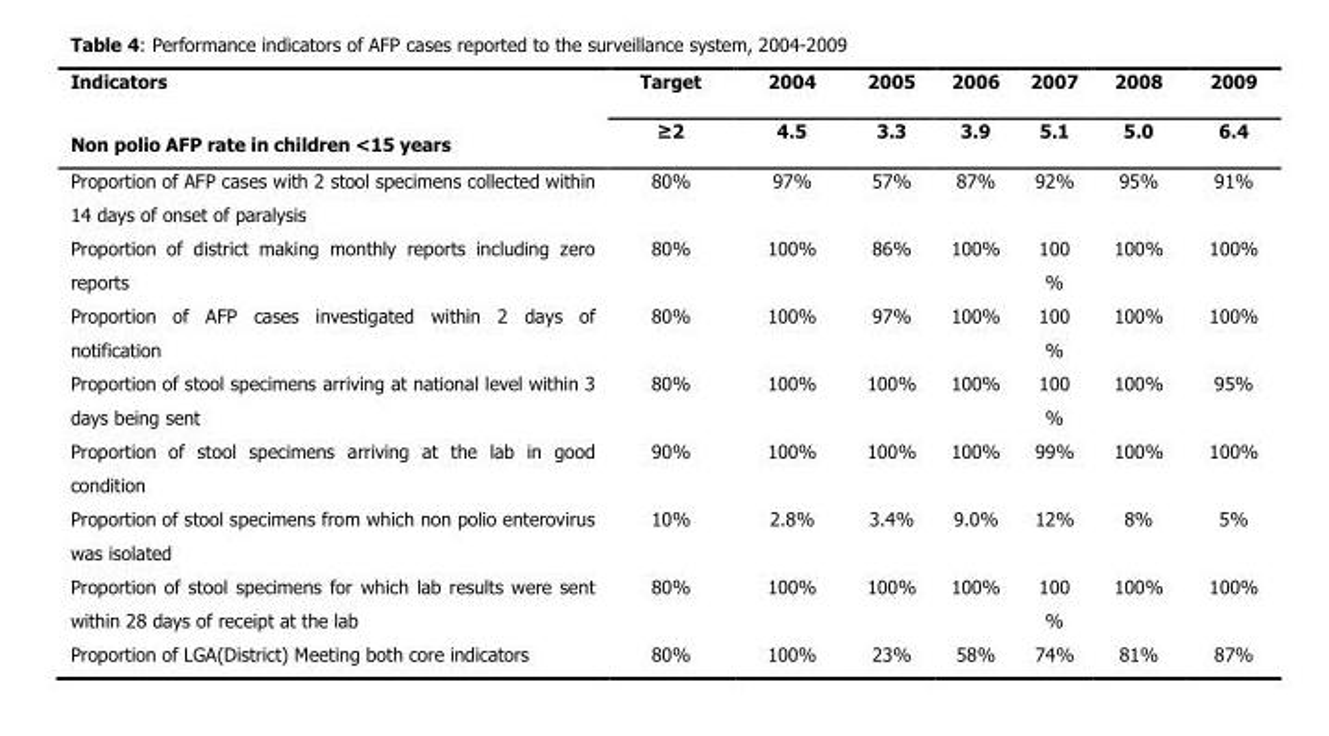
<table><thead><tr><td rowspan="2">Indicators Non polio AFP rate in children &lt;15 years</td><td rowspan="2">Target ≥2</td><td rowspan="2">2004 4.5</td><td rowspan="2">2005 3.3</td><td rowspan="2">2006 3.9</td><td rowspan="2">2007 5.1</td><td rowspan="2">2008 5.0</td><td rowspan="2">2009 6.4</td></tr><tr></tr></thead><tbody><tr><td>Proportion of AFP cases with 2 stool specimens collected within 14 days of onset of paralysis</td><td>80%</td><td>97%</td><td>57%</td><td>87%</td><td>92%</td><td>95%</td><td>91%</td></tr><tr><td>Proportion of district making monthly reports including zero reports</td><td>80%</td><td>100%</td><td>86%</td><td>100%</td><td>100 %</td><td>100%</td><td>100%</td></tr><tr><td>Proportion of AFP cases investigated within 2 days of notification</td><td>80%</td><td>100%</td><td>97%</td><td>100%</td><td>100 %</td><td>100%</td><td>100%</td></tr><tr><td>Proportion of stool specimens arriving at national level within 3 days being sent</td><td>80%</td><td>100%</td><td>100%</td><td>100%</td><td>100 %</td><td>100%</td><td>95%</td></tr><tr><td>Proportion of stool specimens arriving at the lab in good condition</td><td>90%</td><td>100%</td><td>100%</td><td>100%</td><td>99%</td><td>100%</td><td>100%</td></tr><tr><td>Proportion of stool specimens from which non polio enterovirus was isolated</td><td>10%</td><td>2.8%</td><td>3.4%</td><td>9.0%</td><td>12%</td><td>8%</td><td>5%</td></tr><tr><td>Proportion of stool specimens for which lab results were sent within 28 days of receipt at the lab</td><td>80%</td><td>100%</td><td>100%</td><td>100%</td><td>100 %</td><td>100%</td><td>100%</td></tr><tr><td>Proportion of LGA(District) Meeting both core indicators</td><td>80%</td><td>100%</td><td>23%</td><td>58%</td><td>74%</td><td>81%</td><td>87%</td></tr></tbody></table>